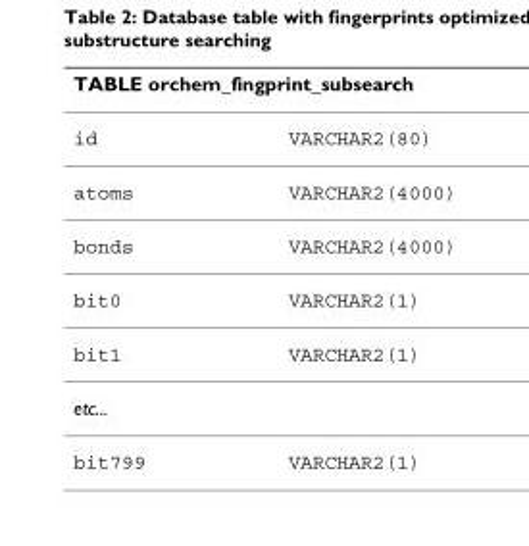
<table><thead><tr><td colspan="2">TABLE orchem_fingprint_subsearch</td></tr><tr><td>id</td><td>VARCHAR2(80)</td></tr></thead><tbody><tr><td>atoms</td><td>VARCHAR2(4000)</td></tr><tr><td>bonds</td><td>VARCHAR2(4000)</td></tr><tr><td>bit0</td><td>VARCHAR2(1)</td></tr><tr><td>bit1</td><td>VARCHAR2(1)</td></tr><tr><td colspan="2">etc...</td></tr><tr><td>bit799</td><td>VARCHAR2(1)</td></tr></tbody></table>